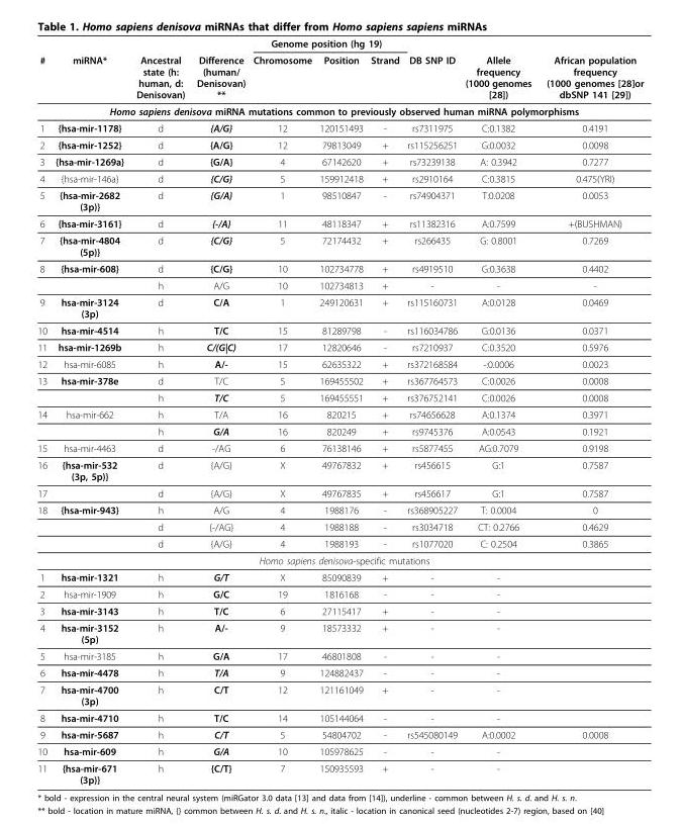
<table><thead><tr><td rowspan="2">#</td><td rowspan="2">miRNA*</td><td rowspan="2">Ancestral state (h: human, d: Denisovan)</td><td rowspan="2">Difference (human/ Denisovan) **</td><td colspan="3">Genome position (hg 19)</td><td rowspan="2">DB SNP ID</td><td rowspan="2">Allele frequency (1000 genomes [28])</td><td rowspan="2">African population frequency (1000 genomes [28]or dbSNP 141 [29])</td></tr><tr><td>Chromosome</td><td>Position</td><td>Strand</td></tr></thead><tbody><tr><td colspan="10">Homo sapiens denisova miRNA mutations common to previously observed human miRNA polymorphisms</td></tr><tr><td>1</td><td>{hsa-mir-1178}</td><td>d</td><td>{A/G}</td><td>12</td><td>120151493</td><td>-</td><td>rs7311975</td><td>C:0.1382</td><td>0.4191</td></tr><tr><td>2</td><td>{hsa-mir-1252}</td><td>d</td><td>{A/G}</td><td>12</td><td>79813049</td><td>+</td><td>rs115256251</td><td>G:0.0032</td><td>0.0098</td></tr><tr><td>3</td><td>{hsa-mir-1269a}</td><td>d</td><td>{G/A}</td><td>4</td><td>67142620</td><td>+</td><td>rs73239138</td><td>A: 0.3942</td><td>0.7277</td></tr><tr><td>4</td><td>{hsa-mir-146a}</td><td>d</td><td>{C/G}</td><td>5</td><td>159912418</td><td>+</td><td>rs2910164</td><td>C:0.3815</td><td>0.475(YRI)</td></tr><tr><td>5</td><td>{hsa-mir-2682 (3p)}</td><td>d</td><td>{G/A}</td><td>1</td><td>98510847</td><td>-</td><td>rs74904371</td><td>T:0.0208</td><td>0.0053</td></tr><tr><td>6</td><td>{hsa-mir-3161}</td><td>d</td><td>{-/A}</td><td>11</td><td>48118347</td><td>+</td><td>rs11382316</td><td>A:0.7599</td><td>+(BUSHMAN)</td></tr><tr><td>7</td><td>{hsa-mir-4804 (5p)}</td><td>d</td><td>{C/G}</td><td>5</td><td>72174432</td><td>+</td><td>rs266435</td><td>G: 0.8001</td><td>0.7269</td></tr><tr><td rowspan="2">8</td><td>{hsa-mir-608}</td><td>d</td><td>{C/G}</td><td>10</td><td>102734778</td><td>+</td><td>rs4919510</td><td>G:0.3638</td><td>0.4402</td></tr><tr><td></td><td>h</td><td>A/G</td><td>10</td><td>102734813</td><td>+</td><td>-</td><td>-</td><td>-</td></tr><tr><td>9</td><td>hsa-mir-3124 (3p)</td><td>d</td><td>C/A</td><td>1</td><td>249120631</td><td>+</td><td>rs115160731</td><td>A:0.0128</td><td>0.0469</td></tr><tr><td>10</td><td>hsa-mir-4514</td><td>h</td><td>T/C</td><td>15</td><td>81289798</td><td>-</td><td>rs116034786</td><td>G:0.0136</td><td>0.0371</td></tr><tr><td>11</td><td>hsa-mir-1269b</td><td>h</td><td>C/(G|C)</td><td>17</td><td>12820646</td><td>-</td><td>rs7210937</td><td>C:0.3520</td><td>0.5976</td></tr><tr><td>12</td><td>hsa-mir-6085</td><td>h</td><td>A/-</td><td>15</td><td>62635322</td><td>+</td><td>rs372168584</td><td>-:0.0006</td><td>0.0023</td></tr><tr><td rowspan="2">13</td><td>hsa-mir-378e</td><td>d</td><td>T/C</td><td>5</td><td>169455502</td><td>+</td><td>rs367764573</td><td>C:0.0026</td><td>0.0008</td></tr><tr><td></td><td>h</td><td>T/C</td><td>5</td><td>169455551</td><td>+</td><td>rs376752141</td><td>C:0.0026</td><td>0.0008</td></tr><tr><td rowspan="2">14</td><td>hsa-mir-662</td><td>h</td><td>T/A</td><td>16</td><td>820215</td><td>+</td><td>rs74656628</td><td>A:0.1374</td><td>0.3971</td></tr><tr><td></td><td>h</td><td>G/A</td><td>16</td><td>820249</td><td>+</td><td>rs9745376</td><td>A:0.0543</td><td>0.1921</td></tr><tr><td>15</td><td>hsa-mir-4463</td><td>d</td><td>-/AG</td><td>6</td><td>76138146</td><td>+</td><td>rs5877455</td><td>AG:0.7079</td><td>0.9198</td></tr><tr><td>16</td><td>{hsa-mir-532 (3p, 5p)}</td><td>d</td><td>{A/G}</td><td>X</td><td>49767832</td><td>+</td><td>rs456615</td><td>G:1</td><td>0.7587</td></tr><tr><td>17</td><td></td><td>d</td><td>{A/G}</td><td>X</td><td>49767835</td><td>+</td><td>rs456617</td><td>G:1</td><td>0.7587</td></tr><tr><td rowspan="3">18</td><td>{hsa-mir-943}</td><td>h</td><td>A/G</td><td>4</td><td>1988176</td><td>-</td><td>rs368905227</td><td>T: 0.0004</td><td>0</td></tr><tr><td></td><td>d</td><td>{-/AG}</td><td>4</td><td>1988188</td><td>-</td><td>rs3034718</td><td>CT: 0.2766</td><td>0.4629</td></tr><tr><td></td><td>d</td><td>{A/G}</td><td>4</td><td>1988193</td><td>-</td><td>rs1077020</td><td>C: 0.2504</td><td>0.3865</td></tr><tr><td colspan="10">Homo sapiens denisova-specific mutations</td></tr><tr><td>1</td><td>hsa-mir-1321</td><td>h</td><td>G/T</td><td>X</td><td>85090839</td><td>+</td><td>-</td><td>-</td><td></td></tr><tr><td>2</td><td>hsa-mir-1909</td><td>h</td><td>G/C</td><td>19</td><td>1816168</td><td>-</td><td>-</td><td>-</td><td></td></tr><tr><td>3</td><td>hsa-mir-3143</td><td>h</td><td>T/C</td><td>6</td><td>27115417</td><td>+</td><td>-</td><td>-</td><td></td></tr><tr><td>4</td><td>hsa-mir-3152 (5p)</td><td>h</td><td>A/-</td><td>9</td><td>18573332</td><td>+</td><td>-</td><td>-</td><td></td></tr><tr><td>5</td><td>hsa-mir-3185</td><td>h</td><td>G/A</td><td>17</td><td>46801808</td><td>-</td><td>-</td><td>-</td><td></td></tr><tr><td>6</td><td>hsa-mir-4478</td><td>h</td><td>T/A</td><td>9</td><td>124882437</td><td>-</td><td>-</td><td>-</td><td></td></tr><tr><td>7</td><td>hsa-mir-4700 (3p)</td><td>h</td><td>C/T</td><td>12</td><td>121161049</td><td>+</td><td>-</td><td>-</td><td></td></tr><tr><td>8</td><td>hsa-mir-4710</td><td>h</td><td>T/C</td><td>14</td><td>105144064</td><td>-</td><td>-</td><td>-</td><td></td></tr><tr><td>9</td><td>hsa-mir-5687</td><td>h</td><td>C/T</td><td>5</td><td>54804702</td><td>-</td><td>rs545080149</td><td>A:0.0002</td><td>0.0008</td></tr><tr><td>10</td><td>hsa-mir-609</td><td>h</td><td>G/A</td><td>10</td><td>105978625</td><td>-</td><td>-</td><td>-</td><td></td></tr><tr><td>11</td><td>{hsa-mir-671 (3p)}</td><td>h</td><td>{C/T}</td><td>7</td><td>150935593</td><td>+</td><td>-</td><td>-</td><td></td></tr></tbody></table>